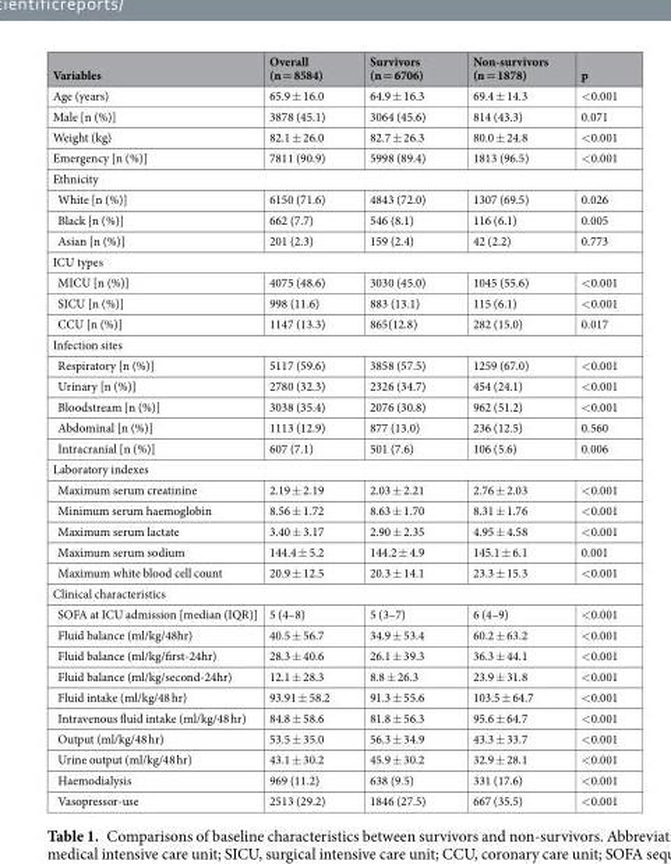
<table><thead><tr><td>Variables</td><td>Overall (n = 8584)</td><td>Survivors (n = 6706)</td><td>Non-survivors (n = 1878)</td><td>p</td></tr></thead><tbody><tr><td>Age (years)</td><td>65.9 ± 16.0</td><td>64.9 ± 16.3</td><td>69.4 ± 14.3</td><td>&lt;0.001</td></tr><tr><td>Male [n (%)]</td><td>3878 (45.1)</td><td>3064 (45.6)</td><td>814 (43.3)</td><td>0.071</td></tr><tr><td>Weight (kg)</td><td>82.1 ± 26.0</td><td>82.7 ± 26.3</td><td>80.0 ± 24.8</td><td>&lt;0.001</td></tr><tr><td>Emergency [n (%)]</td><td>7811 (90.9)</td><td>5998 (89.4)</td><td>1813 (96.5)</td><td>&lt;0.001</td></tr><tr><td colspan="5">Ethnicity</td></tr><tr><td>White [n (%)]</td><td>6150 (71.6)</td><td>4843 (72.0)</td><td>1307 (69.5)</td><td>0.026</td></tr><tr><td>Black [n (%)]</td><td>662 (7.7)</td><td>546 (8.1)</td><td>116 (6.1)</td><td>0.005</td></tr><tr><td>Asian [n (%)]</td><td>201 (2.3)</td><td>159 (2.4)</td><td>42 (2.2)</td><td>0.773</td></tr><tr><td colspan="5">ICU types</td></tr><tr><td>MICU [n (%)]</td><td>4075 (48.6)</td><td>3030 (45.0)</td><td>1045 (55.6)</td><td>&lt;0.001</td></tr><tr><td>SICU [n (%)]</td><td>998 (11.6)</td><td>883 (13.1)</td><td>115 (6.1)</td><td>&lt;0.001</td></tr><tr><td>CCU [n (%)]</td><td>1147 (13.3)</td><td>865(12.8)</td><td>282 (15.0)</td><td>0.017</td></tr><tr><td colspan="5">Infection sites</td></tr><tr><td>Respiratory [n (%)]</td><td>5117 (59.6)</td><td>3858 (57.5)</td><td>1259 (67.0)</td><td>&lt;0.001</td></tr><tr><td>Urinary [n (%)]</td><td>2780 (32.3)</td><td>2326 (34.7)</td><td>454 (24.1)</td><td>&lt;0.001</td></tr><tr><td>Bloodstream [n (%)]</td><td>3038 (35.4)</td><td>2076 (30.8)</td><td>962 (51.2)</td><td>&lt;0.001</td></tr><tr><td>Abdominal [n (%)]</td><td>1113 (12.9)</td><td>877 (13.0)</td><td>236 (12.5)</td><td>0.560</td></tr><tr><td>Intracranial [n (%)]</td><td>607 (7.1)</td><td>501 (7.6)</td><td>106 (5.6)</td><td>0.006</td></tr><tr><td colspan="5">Laboratory indexes</td></tr><tr><td>Maximum serum creatinine</td><td>2.19 ± 2.19</td><td>2.03 ± 2.21</td><td>2.76 ± 2.03</td><td>&lt;0.001</td></tr><tr><td>Minimum serum haemoglobin</td><td>8.56 ± 1.72</td><td>8.63 ± 1.70</td><td>8.31 ± 1.76</td><td>&lt;0.001</td></tr><tr><td>Maximum serum lactate</td><td>3.40 ± 3.17</td><td>2.90 ± 2.35</td><td>4.95 ± 4.58</td><td>&lt;0.001</td></tr><tr><td>Maximum serum sodium</td><td>144.4 ± 5.2</td><td>144.2 ± 4.9</td><td>145.1 ± 6.1</td><td>0.001</td></tr><tr><td>Maximum white blood cell count</td><td>20.9 ± 12.5</td><td>20.3 ± 14.1</td><td>23.3 ± 15.3</td><td>&lt;0.001</td></tr><tr><td colspan="5">Clinical characteristics</td></tr><tr><td>SOFA at ICU admission [median (IQR)]</td><td>5 (4–8)</td><td>5 (3–7)</td><td>6 (4–9)</td><td>&lt;0.001</td></tr><tr><td>Fluid balance (ml/kg/48hr)</td><td>40.5 ± 56.7</td><td>34.9 ± 53.4</td><td>60.2 ± 63.2</td><td>&lt;0.001</td></tr><tr><td>Fluid balance (ml/kg/first-24hr)</td><td>28.3 ± 40.6</td><td>26.1 ± 39.3</td><td>36.3 ± 44.1</td><td>&lt;0.001</td></tr><tr><td>Fluid balance (ml/kg/second-24hr)</td><td>12.1 ± 28.3</td><td>8.8 ± 26.3</td><td>23.9 ± 31.8</td><td>&lt;0.001</td></tr><tr><td>Fluid intake (ml/kg/48 hr)</td><td>93.91 ± 58.2</td><td>91.3 ± 55.6</td><td>103.5 ± 64.7</td><td>&lt;0.001</td></tr><tr><td>Intravenous fluid intake (ml/kg/48 hr)</td><td>84.8 ± 58.6</td><td>81.8 ± 56.3</td><td>95.6 ± 64.7</td><td>&lt;0.001</td></tr><tr><td>Output (ml/kg/48 hr)</td><td>53.5 ± 35.0</td><td>56.3 ± 34.9</td><td>43.3 ± 33.7</td><td>&lt;0.001</td></tr><tr><td>Urine output (ml/kg/48 hr)</td><td>43.1 ± 30.2</td><td>45.9 ± 30.2</td><td>32.9 ± 28.1</td><td>&lt;0.001</td></tr><tr><td>Haemodialysis</td><td>969 (11.2)</td><td>638 (9.5)</td><td>331 (17.6)</td><td>&lt;0.001</td></tr><tr><td>Vasopressor-use</td><td>2513 (29.2)</td><td>1846 (27.5)</td><td>667 (35.5)</td><td>&lt;0.001</td></tr></tbody></table>